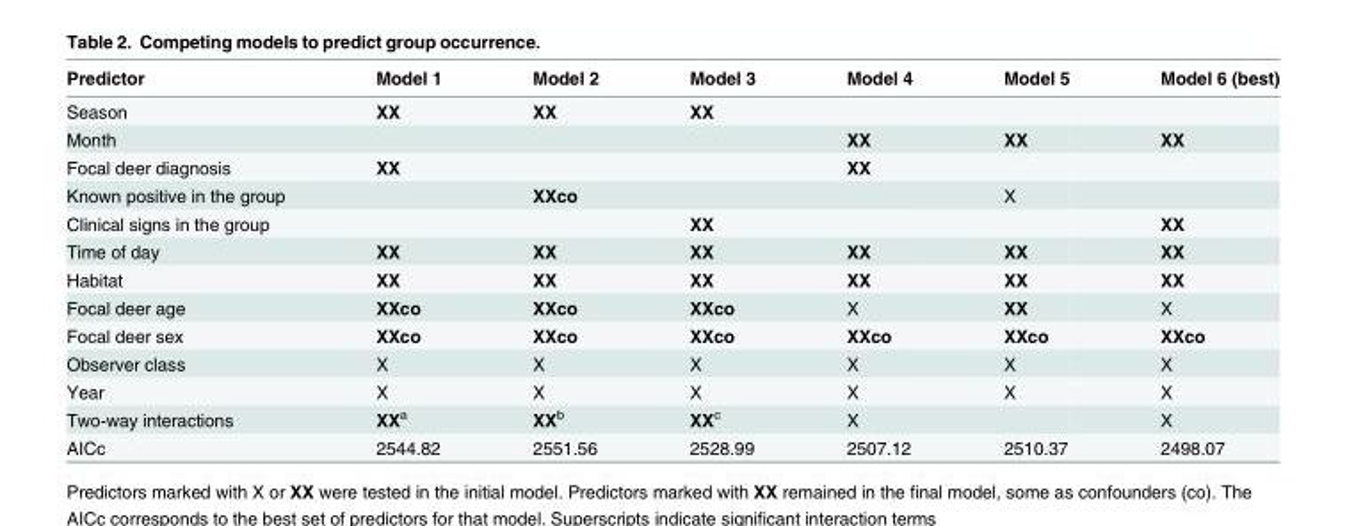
<table><thead><tr><td>Predictor</td><td>Model 1</td><td>Model 2</td><td>Model 3</td><td>Model 4</td><td>Model 5</td><td>Model 6 (best)</td></tr></thead><tbody><tr><td>Season</td><td>XX</td><td>XX</td><td>XX</td><td></td><td></td><td></td></tr><tr><td>Month</td><td></td><td></td><td></td><td>XX</td><td>XX</td><td>XX</td></tr><tr><td>Focal deer diagnosis</td><td>XX</td><td></td><td></td><td>XX</td><td></td><td></td></tr><tr><td>Known positive in the group</td><td></td><td>XXco</td><td></td><td></td><td>X</td><td></td></tr><tr><td>Clinical signs in the group</td><td></td><td></td><td>XX</td><td></td><td></td><td>XX</td></tr><tr><td>Time of day</td><td>XX</td><td>XX</td><td>XX</td><td>XX</td><td>XX</td><td>XX</td></tr><tr><td>Habitat</td><td>XX</td><td>XX</td><td>XX</td><td>XX</td><td>XX</td><td>XX</td></tr><tr><td>Focal deer age</td><td>XXco</td><td>XXco</td><td>XXco</td><td>X</td><td>XX</td><td>X</td></tr><tr><td>Focal deer sex</td><td>XXco</td><td>XXco</td><td>XXco</td><td>XXco</td><td>XXco</td><td>XXco</td></tr><tr><td>Observer class</td><td>X</td><td>X</td><td>X</td><td>X</td><td>X</td><td>X</td></tr><tr><td>Year</td><td>X</td><td>X</td><td>X</td><td>X</td><td>X</td><td>X</td></tr><tr><td>Two-way interactions</td><td>XX<sup>a</sup></td><td>XX<sup>b</sup></td><td>XX<sup>c</sup></td><td>X</td><td></td><td>X</td></tr><tr><td>AICc</td><td>2544.82</td><td>2551.56</td><td>2528.99</td><td>2507.12</td><td>2510.37</td><td>2498.07</td></tr></tbody></table>